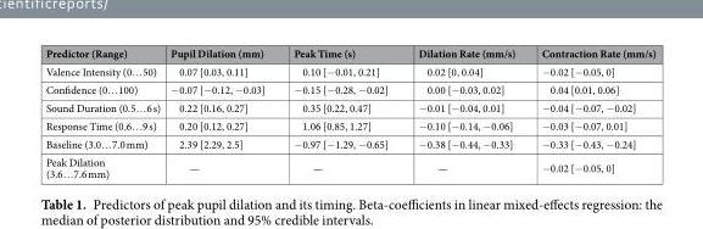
<table><thead><tr><td>Predictor (Range)</td><td>Pupil Dilation (mm)</td><td>Peak Time (s)</td><td>Dilation Rate (mm/s)</td><td>Contraction Rate (mm/s)</td></tr></thead><tbody><tr><td>Valence Intensity (0…50)</td><td>0.07 [0.03, 0.11]</td><td>0.10 [−0.01, 0.21]</td><td>0.02 [0, 0.04]</td><td>−0.02 [−0.05, 0]</td></tr><tr><td>Confidence (0…100)</td><td>−0.07 [−0.12, −0.03]</td><td>−0.15 [−0.28, −0.02]</td><td>0.00 [−0.03, 0.02]</td><td>0.04 [0.01, 0.06]</td></tr><tr><td>Sound Duration (0.5…6 s)</td><td>0.22 [0.16, 0.27]</td><td>0.35 [0.22, 0.47]</td><td>−0.01 [−0.04, 0.01]</td><td>−0.04 [−0.07, −0.02]</td></tr><tr><td>Response Time (0.6…9 s)</td><td>0.20 [0.12, 0.27]</td><td>1.06 [0.85, 1.27]</td><td>−0.10 [−0.14, −0.06]</td><td>−0.03 [−0.07, 0.01]</td></tr><tr><td>Baseline (3.0…7.0 mm)</td><td>2.39 [2.29, 2.5]</td><td>−0.97 [−1.29, −0.65]</td><td>−0.38 [−0.44, −0.33]</td><td>−0.33 [−0.43, −0.24]</td></tr><tr><td>Peak Dilation (3.6…7.6 mm)</td><td>—</td><td>—</td><td>—</td><td>−0.02 [−0.05, 0]</td></tr></tbody></table>